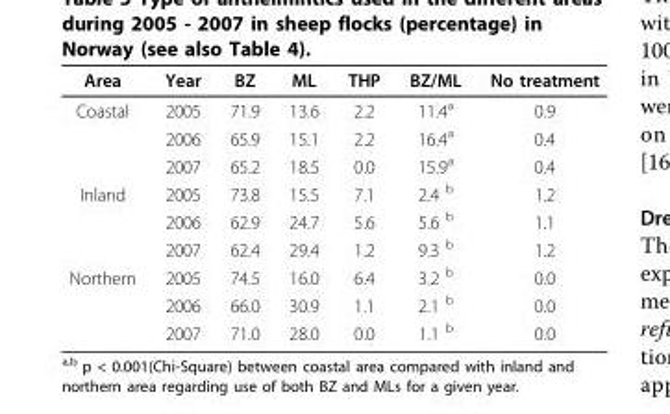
<table><thead><tr><td>Area</td><td>Year</td><td>BZ</td><td>ML</td><td>THP</td><td>BZ/ML</td><td>No treatment</td></tr></thead><tbody><tr><td rowspan="3">Coastal</td><td>2005</td><td>71.9</td><td>13.6</td><td>2.2</td><td>11.4<sup>a</sup></td><td>0.9</td></tr><tr><td>2006</td><td>65.9</td><td>15.1</td><td>2.2</td><td>16.4<sup>a</sup></td><td>0.4</td></tr><tr><td>2007</td><td>65.2</td><td>18.5</td><td>0.0</td><td>15.9<sup>a</sup></td><td>0.4</td></tr><tr><td rowspan="3">Inland</td><td>2005</td><td>73.8</td><td>15.5</td><td>7.1</td><td>2.4 <sup>b</sup></td><td>1.2</td></tr><tr><td>2006</td><td>62.9</td><td>24.7</td><td>5.6</td><td>5.6 <sup>b</sup></td><td>1.1</td></tr><tr><td>2007</td><td>62.4</td><td>29.4</td><td>1.2</td><td>9.3 <sup>b</sup></td><td>1.2</td></tr><tr><td rowspan="3">Northern</td><td>2005</td><td>74.5</td><td>16.0</td><td>6.4</td><td>3.2 <sup>b</sup></td><td>0.0</td></tr><tr><td>2006</td><td>66.0</td><td>30.9</td><td>1.1</td><td>2.1 <sup>b</sup></td><td>0.0</td></tr><tr><td>2007</td><td>71.0</td><td>28.0</td><td>0.0</td><td>1.1 <sup>b</sup></td><td>0.0</td></tr></tbody></table>